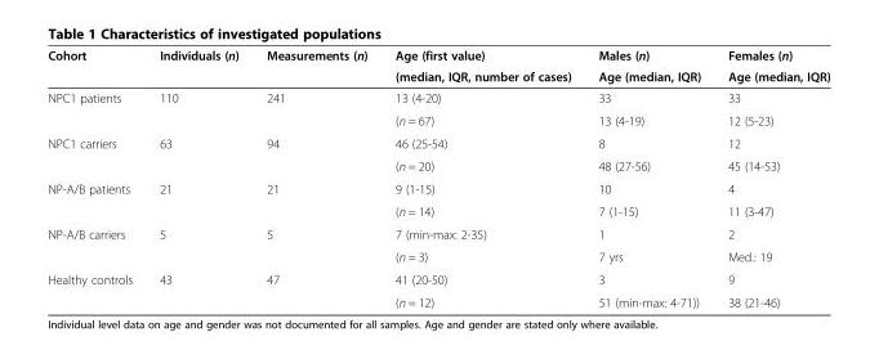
<table><thead><tr><td rowspan="2">Cohort</td><td rowspan="2">Individuals (n)</td><td rowspan="2">Measurements (n)</td><td rowspan="2">Age (first value) (median, IQR, number of cases)</td><td rowspan="2">Males (n) Age (median, IQR)</td><td rowspan="2">Females (n) Age (median, IQR)</td></tr><tr></tr></thead><tbody><tr><td rowspan="2">NPC1 patients</td><td rowspan="2">110</td><td rowspan="2">241</td><td>13 (4-20)</td><td>33</td><td>33</td></tr><tr><td>(n = 67)</td><td>13 (4-19)</td><td>12 (5-23)</td></tr><tr><td rowspan="2">NPC1 carriers</td><td rowspan="2">63</td><td rowspan="2">94</td><td>46 (25-54)</td><td>8</td><td>12</td></tr><tr><td>(n = 20)</td><td>48 (27-56)</td><td>45 (14-53)</td></tr><tr><td rowspan="2">NP-A/B patients</td><td rowspan="2">21</td><td rowspan="2">21</td><td>9 (1-15)</td><td>10</td><td>4</td></tr><tr><td>(n = 14)</td><td>7 (1-15)</td><td>11 (3-47)</td></tr><tr><td rowspan="2">NP-A/B carriers</td><td rowspan="2">5</td><td rowspan="2">5</td><td>7 (min-max: 2-35)</td><td>1</td><td>2</td></tr><tr><td>(n = 3)</td><td>7 yrs</td><td>Med.: 19</td></tr><tr><td rowspan="2">Healthy controls</td><td rowspan="2">43</td><td rowspan="2">47</td><td>41 (20-50)</td><td>3</td><td>9</td></tr><tr><td>(n = 12)</td><td>51 (min-max: 4-71))</td><td>38 (21-46)</td></tr></tbody></table>